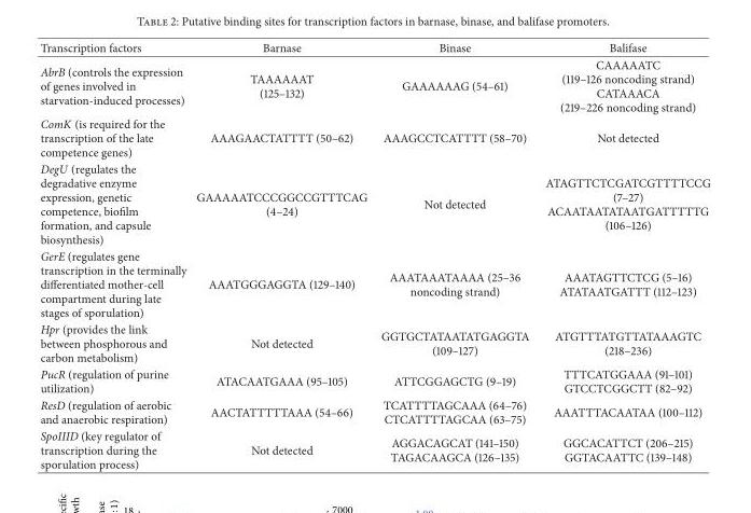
<table><thead><tr><td>Transcription factors</td><td>Barnase</td><td>Binase</td><td>Balifase</td></tr></thead><tbody><tr><td>AbrB (controls the expression of genes involved in starvation-induced processes)</td><td>TAAAAAAT (125–132)</td><td>GAAAAAAG (54–61)</td><td>CAAAAATC (119–126 noncoding strand) CATAAACA (219–226 noncoding strand)</td></tr><tr><td>ComK (is required for the transcription of the late competence genes)</td><td>AAAGAACTATTTT (50–62)</td><td>AAAGCCTCATTTT (58–70)</td><td>Not detected</td></tr><tr><td>DegU (regulates the degradative enzyme expression, genetic competence, biofilm formation, and capsule biosynthesis)</td><td>GAAAAATCCCGGCCGTTTCAG (4–24)</td><td>Not detected</td><td>ATAGTTCTCGATCGTTTTCCG (7–27) ACAATAATATAATGATTTTTG (106–126)</td></tr><tr><td>GerE (regulates gene transcription in the terminally differentiated mother-cell compartment during late stages of sporulation)</td><td>AAATGGGAGGTA (129–140)</td><td>AAATAAATAAAA (25–36 noncoding strand)</td><td>AAATAGTTCTCG (5–16) ATATAATGATTT (112–123)</td></tr><tr><td>Hpr (provides the link between phosphorous and carbon metabolism)</td><td>Not detected</td><td>GGTGCTATAATATGAGGTA (109–127)</td><td>ATGTTTATGTTATAAAGTC (218–236)</td></tr><tr><td>PucR (regulation of purine utilization)</td><td>ATACAATGAAA (95–105)</td><td>ATTCGGAGCTG (9–19)</td><td>TTTCATGGAAA (91–101) GTCCTCGGCTT (82–92)</td></tr><tr><td>ResD (regulation of aerobic and anaerobic respiration)</td><td>AACTATTTTTAAA (54–66)</td><td>TCATTTTAGCAAA (64–76) CTCATTTTAGCAA (63–75)</td><td>AAATTTACAATAA (100–112)</td></tr><tr><td>SpoIIID (key regulator of transcription during the sporulation process)</td><td>Not detected</td><td>AGGACAGCAT (141–150) TAGACAAGCA (126–135)</td><td>GGCACATTCT (206–215) GGTACAATTC (139–148)</td></tr></tbody></table>